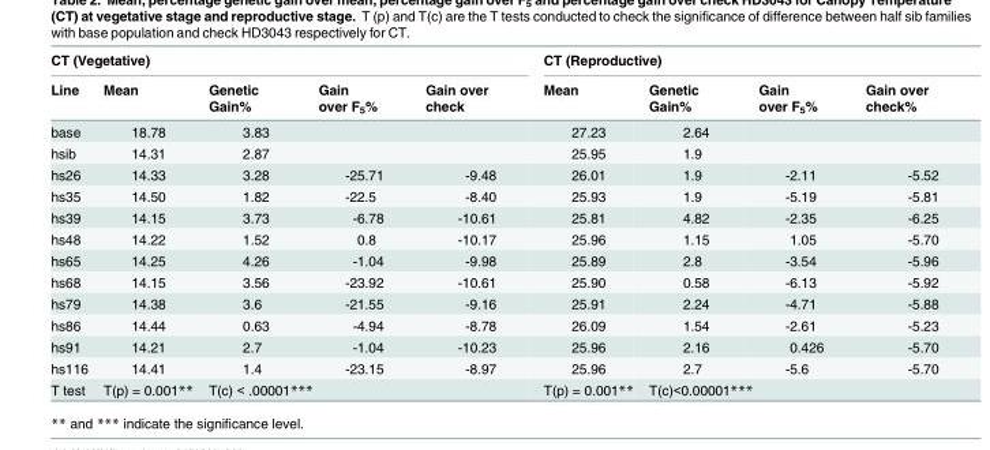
<table><thead><tr><td colspan="5">CT (Vegetative)</td><td colspan="4">CT (Reproductive)</td></tr><tr><td>Line</td><td>Mean</td><td>Genetic Gain%</td><td>Gain over F<sub>5</sub>%</td><td>Gain over check</td><td>Mean</td><td>Genetic Gain%</td><td>Gain over F<sub>5</sub>%</td><td>Gain over check%</td></tr></thead><tbody><tr><td>base</td><td>18.78</td><td>3.83</td><td></td><td></td><td>27.23</td><td>2.64</td><td></td><td></td></tr><tr><td>hsib</td><td>14.31</td><td>2.87</td><td></td><td></td><td>25.95</td><td>1.9</td><td></td><td></td></tr><tr><td>hs26</td><td>14.33</td><td>3.28</td><td>-25.71</td><td>-9.48</td><td>26.01</td><td>1.9</td><td>-2.11</td><td>-5.52</td></tr><tr><td>hs35</td><td>14.50</td><td>1.82</td><td>-22.5</td><td>-8.40</td><td>25.93</td><td>1.9</td><td>-5.19</td><td>-5.81</td></tr><tr><td>hs39</td><td>14.15</td><td>3.73</td><td>-6.78</td><td>-10.61</td><td>25.81</td><td>4.82</td><td>-2.35</td><td>-6.25</td></tr><tr><td>hs48</td><td>14.22</td><td>1.52</td><td>0.8</td><td>-10.17</td><td>25.96</td><td>1.15</td><td>1.05</td><td>-5.70</td></tr><tr><td>hs65</td><td>14.25</td><td>4.26</td><td>-1.04</td><td>-9.98</td><td>25.89</td><td>2.8</td><td>-3.54</td><td>-5.96</td></tr><tr><td>hs68</td><td>14.15</td><td>3.56</td><td>-23.92</td><td>-10.61</td><td>25.90</td><td>0.58</td><td>-6.13</td><td>-5.92</td></tr><tr><td>hs79</td><td>14.38</td><td>3.6</td><td>-21.55</td><td>-9.16</td><td>25.91</td><td>2.24</td><td>-4.71</td><td>-5.88</td></tr><tr><td>hs86</td><td>14.44</td><td>0.63</td><td>-4.94</td><td>-8.78</td><td>26.09</td><td>1.54</td><td>-2.61</td><td>-5.23</td></tr><tr><td>hs91</td><td>14.21</td><td>2.7</td><td>-1.04</td><td>-10.23</td><td>25.96</td><td>2.16</td><td>0.426</td><td>-5.70</td></tr><tr><td>hs116</td><td>14.41</td><td>1.4</td><td>-23.15</td><td>-8.97</td><td>25.96</td><td>2.7</td><td>-5.6</td><td>-5.70</td></tr><tr><td>T test</td><td>T(p) = 0.001**</td><td colspan="2">T(c) &lt; .00001***</td><td></td><td>T(p) = 0.001**</td><td colspan="2">T(c)&lt;0.00001***</td><td></td></tr></tbody></table>